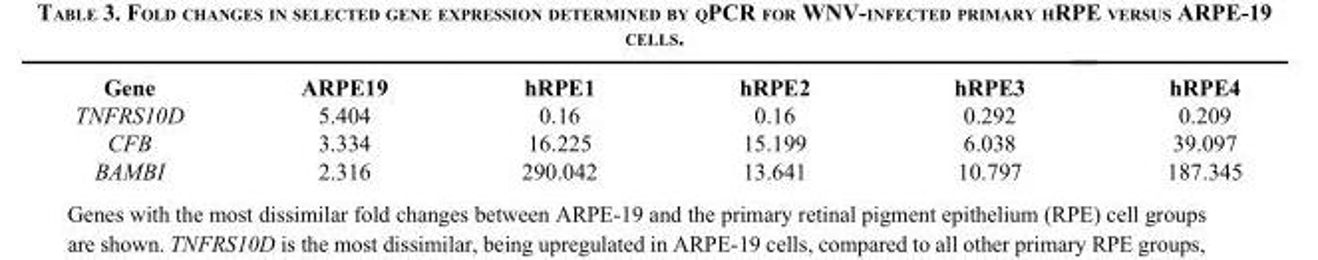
<table><thead><tr><td>Gene</td><td>ARPE19</td><td>hRPE1</td><td>hRPE2</td><td>hRPE3</td><td>hRPE4</td></tr></thead><tbody><tr><td>TNFRS10D</td><td>5.404</td><td>0.16</td><td>0.16</td><td>0.292</td><td>0.209</td></tr><tr><td>CFB</td><td>3.334</td><td>16.225</td><td>15.199</td><td>6.038</td><td>39.097</td></tr><tr><td>BAMBI</td><td>2.316</td><td>290.042</td><td>13.641</td><td>10.797</td><td>187.345</td></tr></tbody></table>